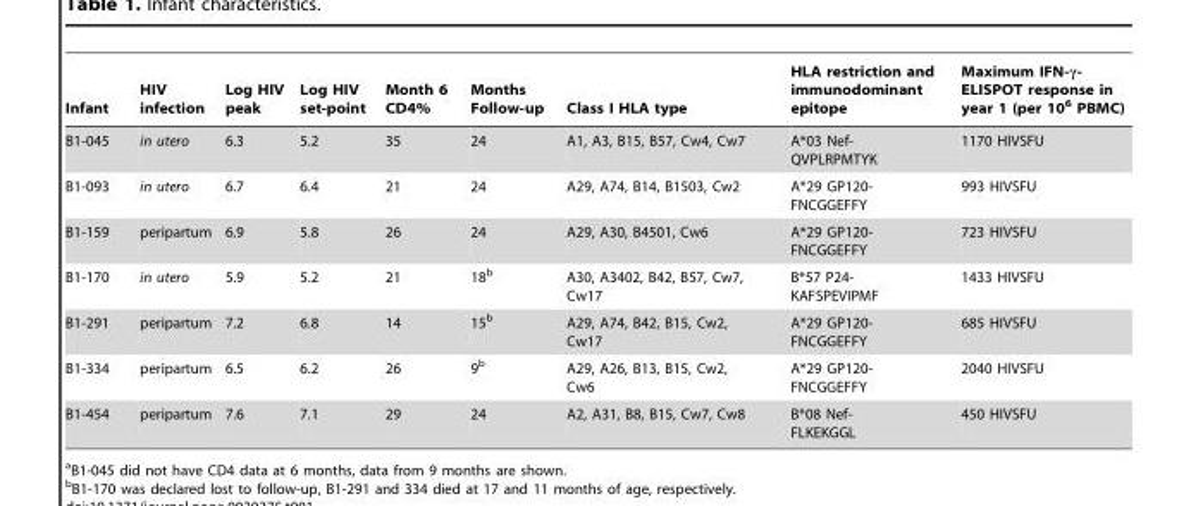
<table><thead><tr><td>Infant</td><td>HIV infection</td><td>Log HIV peak</td><td>Log HIV set-point</td><td>Month 6 CD4%</td><td>Months Follow-up</td><td>Class I HLA type</td><td>HLA restriction and immunodominant epitope</td><td>Maximum IFN-γ- ELISPOT response in year 1 (per 10<sup>6</sup> PBMC)</td></tr></thead><tbody><tr><td>B1-045</td><td>in utero</td><td>6.3</td><td>5.2</td><td>35</td><td>24</td><td>A1, A3, B15, B57, Cw4, Cw7</td><td>A*03 Nef- QVPLRPMTYK</td><td>1170 HIVSFU</td></tr><tr><td>B1-093</td><td>in utero</td><td>6.7</td><td>6.4</td><td>21</td><td>24</td><td>A29, A74, B14, B1503, Cw2</td><td>A*29 GP120- FNCGGEFFY</td><td>993 HIVSFU</td></tr><tr><td>B1-159</td><td>peripartum</td><td>6.9</td><td>5.8</td><td>26</td><td>24</td><td>A29, A30, B4501, Cw6</td><td>A*29 GP120- FNCGGEFFY</td><td>723 HIVSFU</td></tr><tr><td>B1-170</td><td>in utero</td><td>5.9</td><td>5.2</td><td>21</td><td>18<sup>b</sup></td><td>A30, A3402, B42, B57, Cw7, Cw17</td><td>B*57 P24- KAFSPEVIPMF</td><td>1433 HIVSFU</td></tr><tr><td>B1-291</td><td>peripartum</td><td>7.2</td><td>6.8</td><td>14</td><td>15<sup>b</sup></td><td>A29, A74, B42, B15, Cw2, Cw17</td><td>A*29 GP120- FNCGGEFFY</td><td>685 HIVSFU</td></tr><tr><td>B1-334</td><td>peripartum</td><td>6.5</td><td>6.2</td><td>26</td><td>9<sup>b</sup></td><td>A29, A26, B13, B15, Cw2, Cw6</td><td>A*29 GP120- FNCGGEFFY</td><td>2040 HIVSFU</td></tr><tr><td>B1-454</td><td>peripartum</td><td>7.6</td><td>7.1</td><td>29</td><td>24</td><td>A2, A31, B8, B15, Cw7, Cw8</td><td>B*08 Nef- FLKEKGGL</td><td>450 HIVSFU</td></tr></tbody></table>